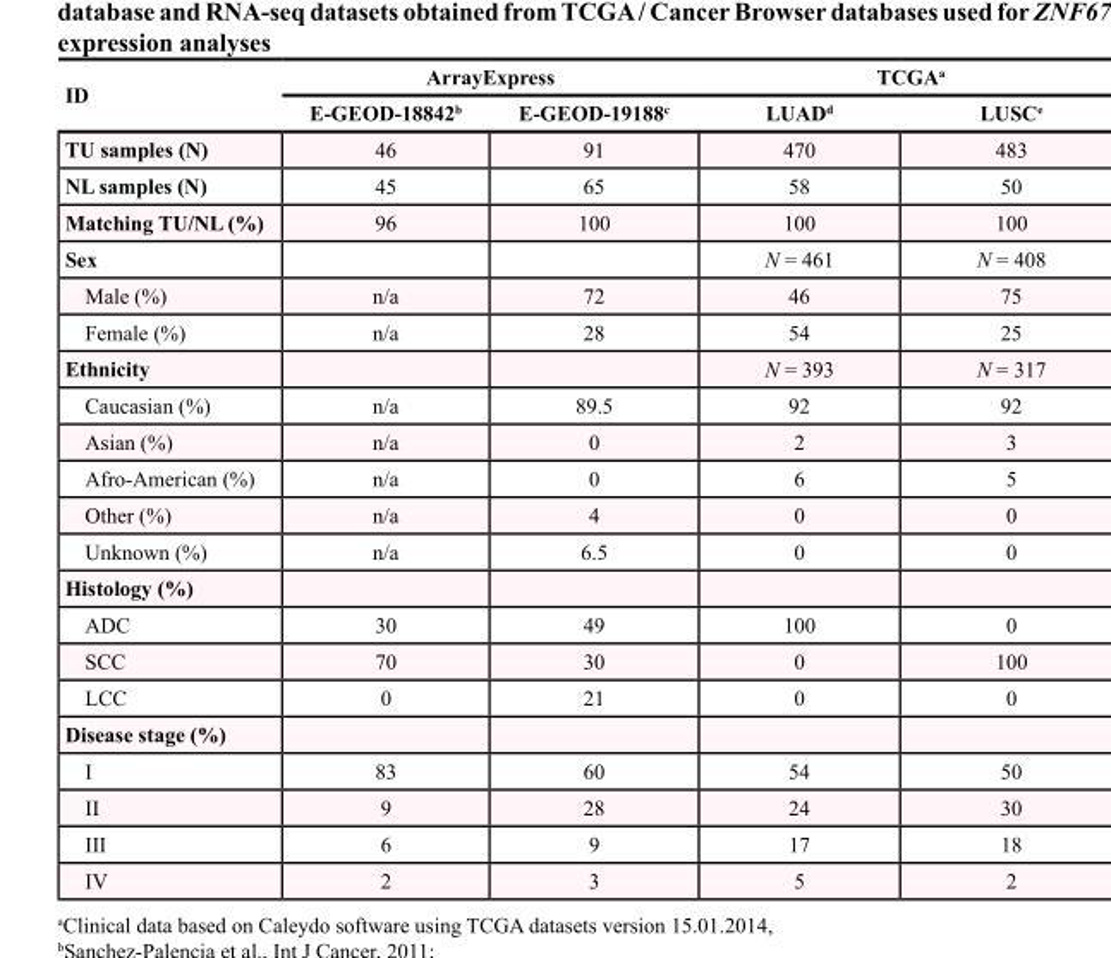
<table><thead><tr><td rowspan="2">ID</td><td colspan="2">ArrayExpress</td><td colspan="2">TCGA<sup>a</sup></td></tr><tr><td>E-GEOD-18842<sup>b</sup></td><td>E-GEOD-19188<sup>c</sup></td><td>LUAD<sup>d</sup></td><td>LUSC<sup>e</sup></td></tr></thead><tbody><tr><td>TU samples (N)</td><td>46</td><td>91</td><td>470</td><td>483</td></tr><tr><td>NL samples (N)</td><td>45</td><td>65</td><td>58</td><td>50</td></tr><tr><td>Matching TU/NL (%)</td><td>96</td><td>100</td><td>100</td><td>100</td></tr><tr><td>Sex</td><td></td><td></td><td>N = 461</td><td>N = 408</td></tr><tr><td>Male (%)</td><td>n/a</td><td>72</td><td>46</td><td>75</td></tr><tr><td>Female (%)</td><td>n/a</td><td>28</td><td>54</td><td>25</td></tr><tr><td>Ethnicity</td><td></td><td></td><td>N = 393</td><td>N = 317</td></tr><tr><td>Caucasian (%)</td><td>n/a</td><td>89.5</td><td>92</td><td>92</td></tr><tr><td>Asian (%)</td><td>n/a</td><td>0</td><td>2</td><td>3</td></tr><tr><td>Afro-American (%)</td><td>n/a</td><td>0</td><td>6</td><td>5</td></tr><tr><td>Other (%)</td><td>n/a</td><td>4</td><td>0</td><td>0</td></tr><tr><td>Unknown (%)</td><td>n/a</td><td>6.5</td><td>0</td><td>0</td></tr><tr><td colspan="5">Histology (%)</td></tr><tr><td>ADC</td><td>30</td><td>49</td><td>100</td><td>0</td></tr><tr><td>SCC</td><td>70</td><td>30</td><td>0</td><td>100</td></tr><tr><td>LCC</td><td>0</td><td>21</td><td>0</td><td>0</td></tr><tr><td colspan="5">Disease stage (%)</td></tr><tr><td>I</td><td>83</td><td>60</td><td>54</td><td>50</td></tr><tr><td>II</td><td>9</td><td>28</td><td>24</td><td>30</td></tr><tr><td>III</td><td>6</td><td>9</td><td>17</td><td>18</td></tr><tr><td>IV</td><td>2</td><td>3</td><td>5</td><td>2</td></tr></tbody></table>